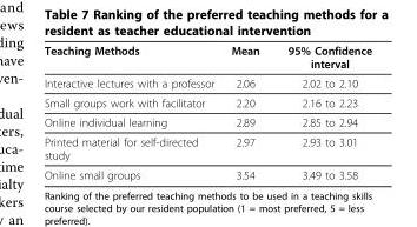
<table><thead><tr><td>Teaching Methods</td><td>Mean</td><td>95% Confidence interval</td></tr></thead><tbody><tr><td>Interactive lectures with a professor</td><td>2.06</td><td>2.02 to 2.10</td></tr><tr><td>Small groups work with facilitator</td><td>2.20</td><td>2.16 to 2.23</td></tr><tr><td>Online individual learning</td><td>2.89</td><td>2.85 to 2.94</td></tr><tr><td>Printed material for self-directed study</td><td>2.97</td><td>2.93 to 3.01</td></tr><tr><td>Online small groups</td><td>3.54</td><td>3.49 to 3.58</td></tr></tbody></table>